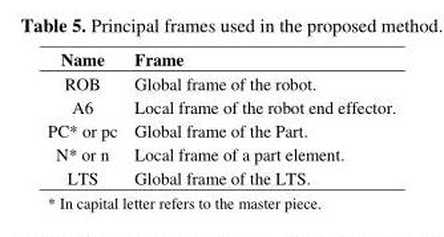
<table><thead><tr><td>Name</td><td>Frame</td></tr></thead><tbody><tr><td>ROB</td><td>Global frame of the robot.</td></tr><tr><td>A6</td><td>Local frame of the robot end effector.</td></tr><tr><td>PC* or pc</td><td>Global frame of the Part.</td></tr><tr><td>N* or n</td><td>Local frame of a part element.</td></tr><tr><td>LTS</td><td>Global frame of the LTS.</td></tr></tbody></table>